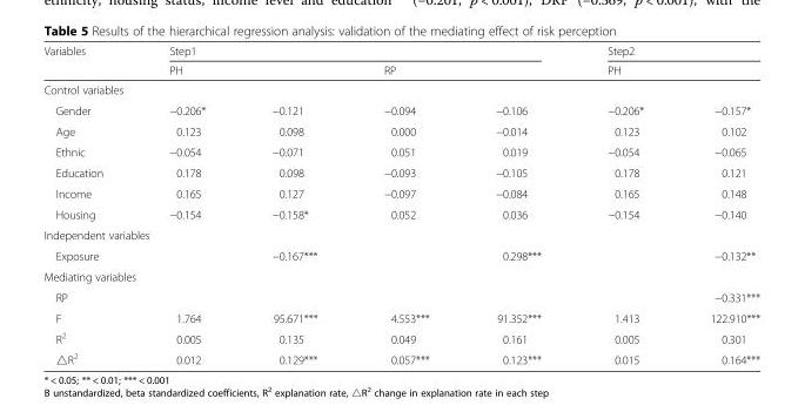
<table><thead><tr><td rowspan="2">Variables</td><td colspan="4">Step1</td><td rowspan="2" colspan="2">Step2 PH</td></tr><tr><td colspan="2">PH</td><td colspan="2">RP</td></tr><tr><td colspan="7">Control variables</td></tr><tr><td>Gender</td><td>−0.206*</td><td>−0.121</td><td>−0.094</td><td>−0.106</td><td>−0.206*</td><td>−0.157*</td></tr></thead><tbody><tr><td>Age</td><td>0.123</td><td>0.098</td><td>0.000</td><td>−0.014</td><td>0.123</td><td>0.102</td></tr><tr><td>Ethnic</td><td>−0.054</td><td>−0.071</td><td>0.051</td><td>0.019</td><td>−0.054</td><td>−0.065</td></tr><tr><td>Education</td><td>0.178</td><td>0.098</td><td>−0.093</td><td>−0.105</td><td>0.178</td><td>0.121</td></tr><tr><td>Income</td><td>0.165</td><td>0.127</td><td>−0.097</td><td>−0.084</td><td>0.165</td><td>0.148</td></tr><tr><td>Housing</td><td>−0.154</td><td>−0.158*</td><td>0.052</td><td>0.036</td><td>−0.154</td><td>−0.140</td></tr><tr><td colspan="7">Independent variables</td></tr><tr><td>Exposure</td><td></td><td>−0.167***</td><td></td><td>0.298***</td><td></td><td>−0.132**</td></tr><tr><td colspan="7">Mediating variables</td></tr><tr><td>RP</td><td></td><td></td><td></td><td></td><td></td><td>−0.331***</td></tr><tr><td>F</td><td>1.764</td><td>95.671***</td><td>4.553***</td><td>91.352***</td><td>1.413</td><td>122.910***</td></tr><tr><td>R<sup>2</sup></td><td>0.005</td><td>0.135</td><td>0.049</td><td>0.161</td><td>0.005</td><td>0.301</td></tr><tr><td>△R<sup>2</sup></td><td>0.012</td><td>0.129***</td><td>0.057***</td><td>0.123***</td><td>0.015</td><td>0.164***</td></tr></tbody></table>